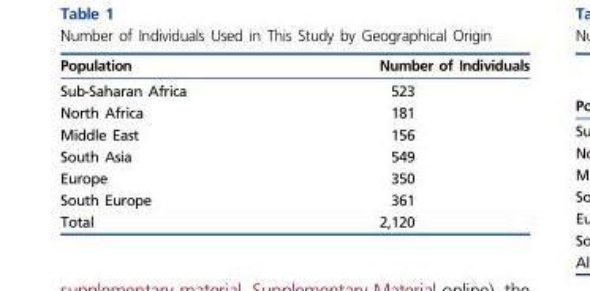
<table><thead><tr><td>Population</td><td>Number of Individuals</td></tr></thead><tbody><tr><td>Sub-Saharan Africa</td><td>523</td></tr><tr><td>North Africa</td><td>181</td></tr><tr><td>Middle East</td><td>156</td></tr><tr><td>South Asia</td><td>549</td></tr><tr><td>Europe</td><td>350</td></tr><tr><td>South Europe</td><td>361</td></tr><tr><td>Total</td><td>2,120</td></tr></tbody></table>